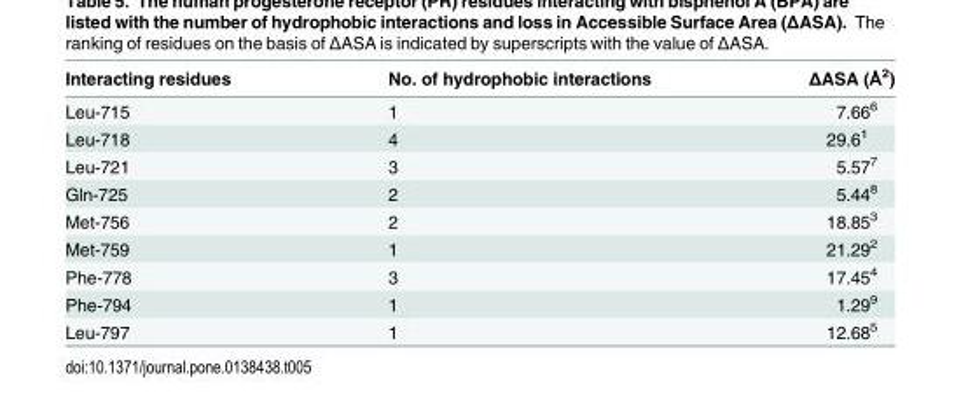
<table><thead><tr><td>Interacting residues</td><td>No. of hydrophobic interactions</td><td>ΔASA (Å<sup>2</sup>)</td></tr></thead><tbody><tr><td>Leu-715</td><td>1</td><td>7.66<sup>6</sup></td></tr><tr><td>Leu-718</td><td>4</td><td>29.6<sup>1</sup></td></tr><tr><td>Leu-721</td><td>3</td><td>5.57<sup>7</sup></td></tr><tr><td>Gln-725</td><td>2</td><td>5.44<sup>8</sup></td></tr><tr><td>Met-756</td><td>2</td><td>18.85<sup>3</sup></td></tr><tr><td>Met-759</td><td>1</td><td>21.29<sup>2</sup></td></tr><tr><td>Phe-778</td><td>3</td><td>17.45<sup>4</sup></td></tr><tr><td>Phe-794</td><td>1</td><td>1.29<sup>9</sup></td></tr><tr><td>Leu-797</td><td>1</td><td>12.68<sup>5</sup></td></tr></tbody></table>